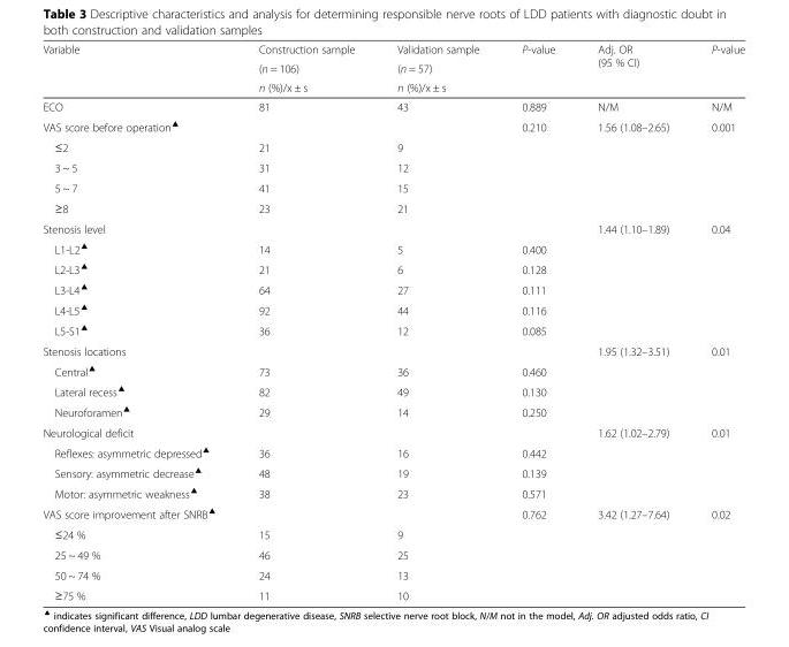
<table><thead><tr><td rowspan="3">Variable</td><td rowspan="3">Construction sample (n = 106) n (%)/x ± s</td><td rowspan="3">Validation sample (n = 57) n (%)/x ± s</td><td rowspan="3">P-value</td><td rowspan="3">Adj. OR (95 % CI)</td><td rowspan="3">P-value</td></tr><tr></tr><tr></tr></thead><tbody><tr><td>ECO</td><td>81</td><td>43</td><td>0.889</td><td>N/M</td><td>N/M</td></tr><tr><td>VAS score before operation<sup>▲</sup></td><td></td><td></td><td>0.210</td><td>1.56 (1.08–2.65)</td><td>0.001</td></tr><tr><td>≤2</td><td>21</td><td>9</td><td></td><td></td><td></td></tr><tr><td>3 ~ 5</td><td>31</td><td>12</td><td></td><td></td><td></td></tr><tr><td>5 ~ 7</td><td>41</td><td>15</td><td></td><td></td><td></td></tr><tr><td>≥8</td><td>23</td><td>21</td><td></td><td></td><td></td></tr><tr><td>Stenosis level</td><td></td><td></td><td></td><td>1.44 (1.10–1.89)</td><td>0.04</td></tr><tr><td>L1-L2<sup>▲</sup></td><td>14</td><td>5</td><td>0.400</td><td></td><td></td></tr><tr><td>L2-L3<sup>▲</sup></td><td>21</td><td>6</td><td>0.128</td><td></td><td></td></tr><tr><td>L3-L4<sup>▲</sup></td><td>64</td><td>27</td><td>0.111</td><td></td><td></td></tr><tr><td>L4-L5<sup>▲</sup></td><td>92</td><td>44</td><td>0.116</td><td></td><td></td></tr><tr><td>L5-S1<sup>▲</sup></td><td>36</td><td>12</td><td>0.085</td><td></td><td></td></tr><tr><td>Stenosis locations</td><td></td><td></td><td></td><td>1.95 (1.32–3.51)</td><td>0.01</td></tr><tr><td>Central<sup>▲</sup></td><td>73</td><td>36</td><td>0.460</td><td></td><td></td></tr><tr><td>Lateral recess<sup>▲</sup></td><td>82</td><td>49</td><td>0.130</td><td></td><td></td></tr><tr><td>Neuroforamen<sup>▲</sup></td><td>29</td><td>14</td><td>0.250</td><td></td><td></td></tr><tr><td>Neurological deficit</td><td></td><td></td><td></td><td>1.62 (1.02–2.79)</td><td>0.01</td></tr><tr><td>Reflexes: asymmetric depressed<sup>▲</sup></td><td>36</td><td>16</td><td>0.442</td><td></td><td></td></tr><tr><td>Sensory: asymmetric decrease<sup>▲</sup></td><td>48</td><td>19</td><td>0.139</td><td></td><td></td></tr><tr><td>Motor: asymmetric weakness<sup>▲</sup></td><td>38</td><td>23</td><td>0.571</td><td></td><td></td></tr><tr><td>VAS score improvement after SNRB<sup>▲</sup></td><td></td><td></td><td>0.762</td><td>3.42 (1.27–7.64)</td><td>0.02</td></tr><tr><td>≤24 %</td><td>15</td><td>9</td><td></td><td></td><td></td></tr><tr><td>25 ~ 49 %</td><td>46</td><td>25</td><td></td><td></td><td></td></tr><tr><td>50 ~ 74 %</td><td>24</td><td>13</td><td></td><td></td><td></td></tr><tr><td>≥75 %</td><td>11</td><td>10</td><td></td><td></td><td></td></tr></tbody></table>